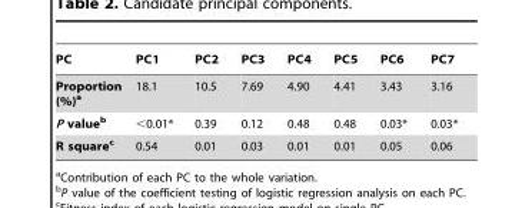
<table><thead><tr><td>PC</td><td>PC1</td><td>PC2</td><td>PC3</td><td>PC4</td><td>PC5</td><td>PC6</td><td>PC7</td></tr></thead><tbody><tr><td>Proportion (%)a</td><td>18.1</td><td>10.5</td><td>7.69</td><td>4.90</td><td>4.41</td><td>3.43</td><td>3.16</td></tr><tr><td>P valueb</td><td>&lt;0.01*</td><td>0.39</td><td>0.12</td><td>0.48</td><td>0.48</td><td>0.03*</td><td>0.03*</td></tr><tr><td>R squarec</td><td>0.54</td><td>0.01</td><td>0.03</td><td>0.01</td><td>0.01</td><td>0.05</td><td>0.06</td></tr></tbody></table>